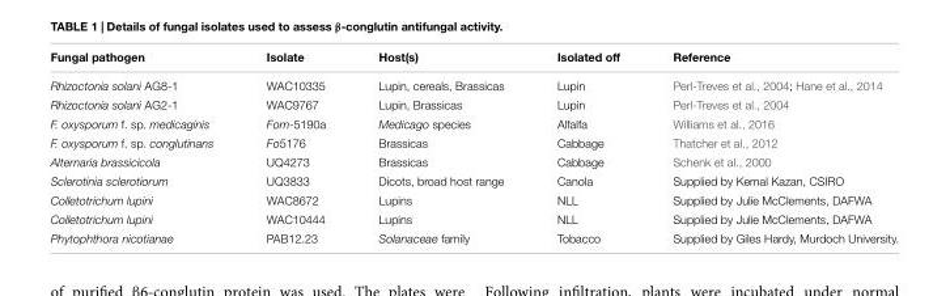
<table><thead><tr><td>Fungal pathogen</td><td>Isolate</td><td>Host(s)</td><td>Isolated off</td><td>Reference</td></tr></thead><tbody><tr><td>Rhizoctonia solani AG8-1</td><td>WAC10335</td><td>Lupin, cereals, Brassicas</td><td>Lupin</td><td>Perl-Treves et al., 2004; Hane et al., 2014</td></tr><tr><td>Rhizoctonia solani AG2-1</td><td>WAC9767</td><td>Lupin, Brassicas</td><td>Lupin</td><td>Perl-Treves et al., 2004</td></tr><tr><td>F. oxysporum f. sp. medicaginis</td><td>Fom-5190a</td><td>Medicago species</td><td>Alfalfa</td><td>Williams et al., 2016</td></tr><tr><td>F. oxysporum f. sp. conglutinans</td><td>Fo5176</td><td>Brassicas</td><td>Cabbage</td><td>Thatcher et al., 2012</td></tr><tr><td>Alternaria brassicicola</td><td>UQ4273</td><td>Brassicas</td><td>Cabbage</td><td>Schenk et al., 2000</td></tr><tr><td>Sclerotinia sclerotiorum</td><td>UQ3833</td><td>Dicots, broad host range</td><td>Canola</td><td>Supplied by Kemal Kazan, CSIRO</td></tr><tr><td>Colletotrichum lupini</td><td>WAC8672</td><td>Lupins</td><td>NLL</td><td>Supplied by Julie McClements, DAFWA</td></tr><tr><td>Colletotrichum lupini</td><td>WAC10444</td><td>Lupins</td><td>NLL</td><td>Supplied by Julie McClements, DAFWA</td></tr><tr><td>Phytophthora nicotianae</td><td>PAB12.23</td><td>Solanaceae family</td><td>Tobacco</td><td>Supplied by Giles Hardy, Murdoch University.</td></tr></tbody></table>